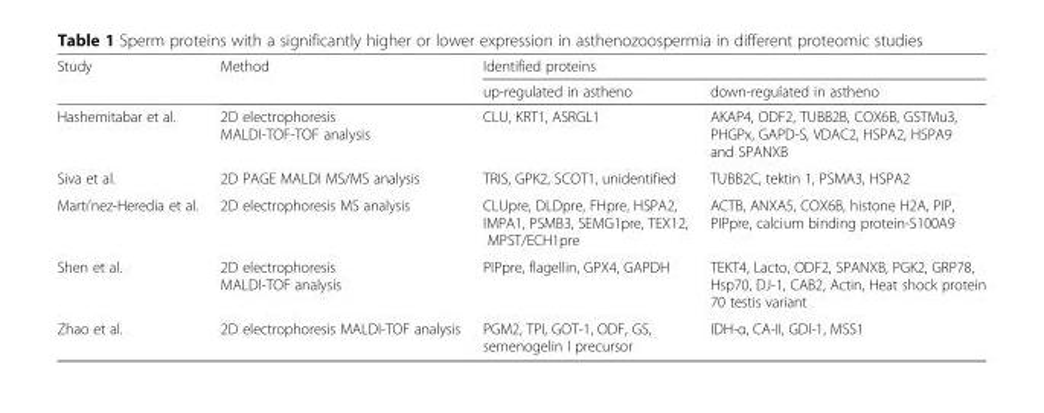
<table><thead><tr><td rowspan="2">Study</td><td rowspan="2">Method</td><td colspan="2">Identified proteins</td></tr><tr><td>up-regulated in astheno</td><td>down-regulated in astheno</td></tr></thead><tbody><tr><td>Hashemitabar et al.</td><td>2D electrophoresis MALDI-TOF-TOF analysis</td><td>CLU, KRT1, ASRGL1</td><td>AKAP4, ODF2, TUBB2B, COX6B, GSTMu3, PHGPx, GAPD-S, VDAC2, HSPA2, HSPA9 and SPANXB</td></tr><tr><td>Siva et al.</td><td>2D PAGE MALDI MS/MS analysis</td><td>TRIS, GPK2, SCOT1, unidentified</td><td>TUBB2C, tektin 1, PSMA3, HSPA2</td></tr><tr><td>Martı’nez-Heredia et al.</td><td>2D electrophoresis MS analysis</td><td>CLUpre, DLDpre, FHpre, HSPA2, IMPA1, PSMB3, SEMG1pre, TEX12, MPST/ECH1pre</td><td>ACTB, ANXA5, COX6B, histone H2A, PIP, PIPpre, calcium binding protein-S100A9</td></tr><tr><td>Shen et al.</td><td>2D electrophoresis MALDI-TOF analysis</td><td>PIPpre, flagellin, GPX4, GAPDH</td><td>TEKT4, Lacto, ODF2, SPANXB, PGK2, GRP78, Hsp70, DJ-1, CAB2, Actin, Heat shock protein 70 testis variant</td></tr><tr><td>Zhao et al.</td><td>2D electrophoresis MALDI-TOF analysis</td><td>PGM2, TPI, GOT-1, ODF, GS, semenogelin I precursor</td><td>IDH-α, CA-II, GDI-1, MSS1</td></tr></tbody></table>